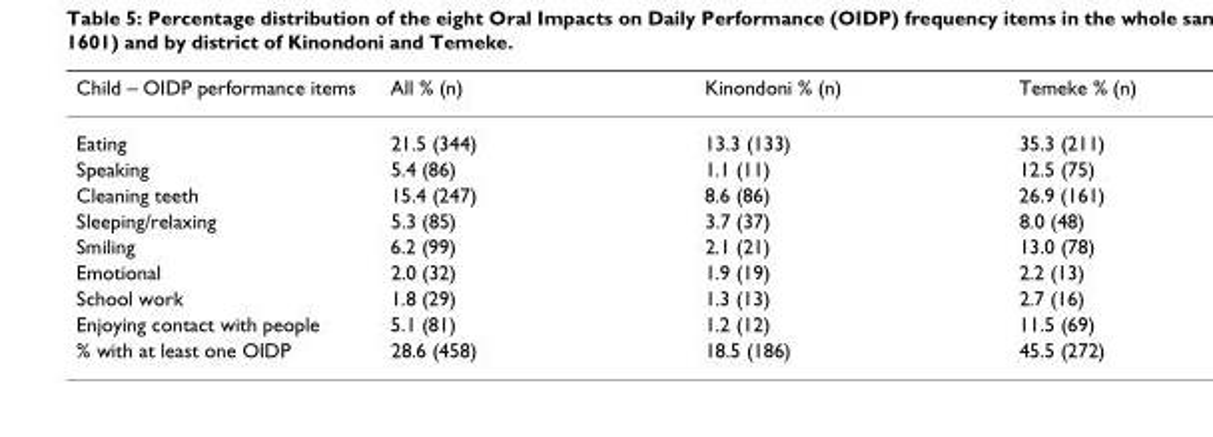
<table><thead><tr><td>Child – OIDP performance items</td><td>All % (n)</td><td>Kinondoni % (n)</td><td>Temeke % (n)</td></tr></thead><tbody><tr><td>Eating</td><td>21.5 (344)</td><td>13.3 (133)</td><td>35.3 (211)</td></tr><tr><td>Speaking</td><td>5.4 (86)</td><td>1.1 (11)</td><td>12.5 (75)</td></tr><tr><td>Cleaning teeth</td><td>15.4 (247)</td><td>8.6 (86)</td><td>26.9 (161)</td></tr><tr><td>Sleeping/relaxing</td><td>5.3 (85)</td><td>3.7 (37)</td><td>8.0 (48)</td></tr><tr><td>Smiling</td><td>6.2 (99)</td><td>2.1 (21)</td><td>13.0 (78)</td></tr><tr><td>Emotional</td><td>2.0 (32)</td><td>1.9 (19)</td><td>2.2 (13)</td></tr><tr><td>School work</td><td>1.8 (29)</td><td>1.3 (13)</td><td>2.7 (16)</td></tr><tr><td>Enjoying contact with people</td><td>5.1 (81)</td><td>1.2 (12)</td><td>11.5 (69)</td></tr><tr><td>% with at least one OIDP</td><td>28.6 (458)</td><td>18.5 (186)</td><td>45.5 (272)</td></tr></tbody></table>